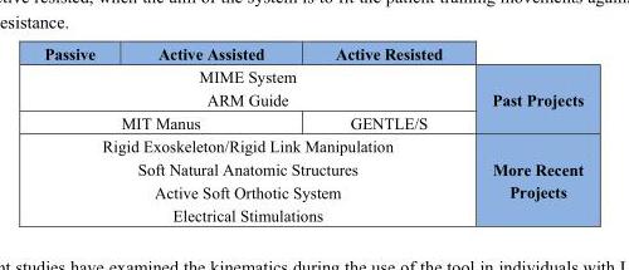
<table><thead><tr><td>Passive</td><td>Active Assisted</td><td>Active Resisted</td><td></td></tr></thead><tbody><tr><td colspan="3">MIME System</td><td rowspan="3">Past Projects</td></tr><tr><td colspan="3">ARM Guide</td></tr><tr><td colspan="2">MIT Manus</td><td>GENTLE/S</td></tr><tr><td colspan="3">Rigid Exoskeleton/Rigid Link Manipulation</td><td rowspan="4">More Recent Projects</td></tr><tr><td colspan="3">Soft Natural Anatomic Structures</td></tr><tr><td colspan="3">Active Soft Orthotic System</td></tr><tr><td colspan="3">Electrical Stimulations</td></tr></tbody></table>